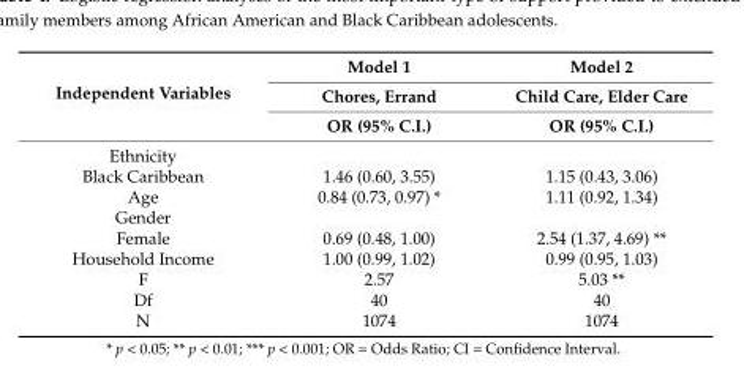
<table><thead><tr><td rowspan="3">Independent Variables</td><td rowspan="3">Model 1 Chores, Errand OR (95% C.I.)</td><td rowspan="3">Model 2 Child Care, Elder Care OR (95% C.I.)</td></tr><tr></tr><tr></tr></thead><tbody><tr><td colspan="3">Ethnicity</td></tr><tr><td>Black Caribbean</td><td>1.46 (0.60, 3.55)</td><td>1.15 (0.43, 3.06)</td></tr><tr><td>Age</td><td>0.84 (0.73, 0.97) *</td><td>1.11 (0.92, 1.34)</td></tr><tr><td colspan="3">Gender</td></tr><tr><td>Female</td><td>0.69 (0.48, 1.00)</td><td>2.54 (1.37, 4.69) **</td></tr><tr><td>Household Income</td><td>1.00 (0.99, 1.02)</td><td>0.99 (0.95, 1.03)</td></tr><tr><td>F</td><td>2.57</td><td>5.03 **</td></tr><tr><td>Df</td><td>40</td><td>40</td></tr><tr><td>N</td><td>1074</td><td>1074</td></tr></tbody></table>